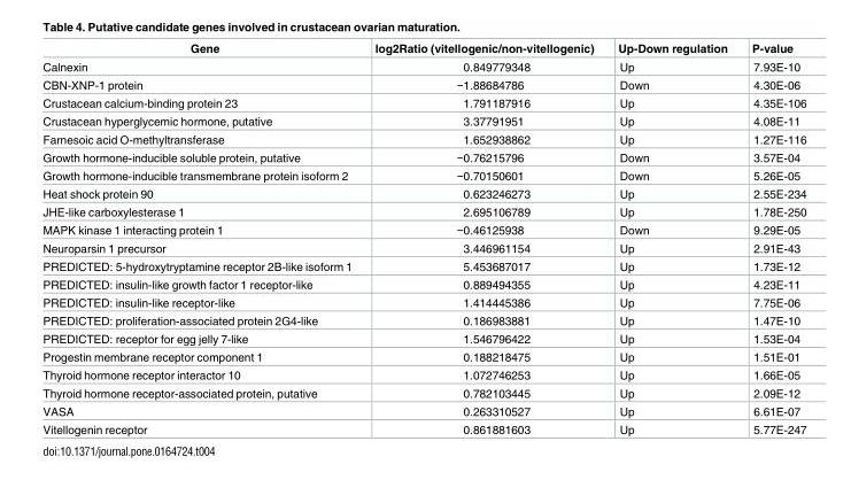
<table><thead><tr><td>Gene</td><td>log2Ratio (vitellogenic/non-vitellogenic)</td><td>Up-Down regulation</td><td>P-value</td></tr></thead><tbody><tr><td>Calnexin</td><td>0.849779348</td><td>Up</td><td>7.93E-10</td></tr><tr><td>CBN-XNP-1 protein</td><td>−1.88684786</td><td>Down</td><td>4.30E-06</td></tr><tr><td>Crustacean calcium-binding protein 23</td><td>1.791187916</td><td>Up</td><td>4.35E-106</td></tr><tr><td>Crustacean hyperglycemic hormone, putative</td><td>3.37791951</td><td>Up</td><td>4.08E-11</td></tr><tr><td>Farnesoic acid O-methyltransferase</td><td>1.652938862</td><td>Up</td><td>1.27E-116</td></tr><tr><td>Growth hormone-inducible soluble protein, putative</td><td>−0.76215796</td><td>Down</td><td>3.57E-04</td></tr><tr><td>Growth hormone-inducible transmembrane protein isoform 2</td><td>−0.70150601</td><td>Down</td><td>5.26E-05</td></tr><tr><td>Heat shock protein 90</td><td>0.623246273</td><td>Up</td><td>2.55E-234</td></tr><tr><td>JHE-like carboxylesterase 1</td><td>2.695106789</td><td>Up</td><td>1.78E-250</td></tr><tr><td>MAPK kinase 1 interacting protein 1</td><td>−0.46125938</td><td>Down</td><td>9.29E-05</td></tr><tr><td>Neuroparsin 1 precursor</td><td>3.446961154</td><td>Up</td><td>2.91E-43</td></tr><tr><td>PREDICTED: 5-hydroxytryptamine receptor 2B-like isoform 1</td><td>5.453687017</td><td>Up</td><td>1.73E-12</td></tr><tr><td>PREDICTED: insulin-like growth factor 1 receptor-like</td><td>0.889494355</td><td>Up</td><td>4.23E-11</td></tr><tr><td>PREDICTED: insulin-like receptor-like</td><td>1.414445386</td><td>Up</td><td>7.75E-06</td></tr><tr><td>PREDICTED: proliferation-associated protein 2G4-like</td><td>0.186983881</td><td>Up</td><td>1.47E-10</td></tr><tr><td>PREDICTED: receptor for egg jelly 7-like</td><td>1.546796422</td><td>Up</td><td>1.53E-04</td></tr><tr><td>Progestin membrane receptor component 1</td><td>0.188218475</td><td>Up</td><td>1.51E-01</td></tr><tr><td>Thyroid hormone receptor interactor 10</td><td>1.072746253</td><td>Up</td><td>1.66E-05</td></tr><tr><td>Thyroid hormone receptor-associated protein, putative</td><td>0.782103445</td><td>Up</td><td>2.09E-12</td></tr><tr><td>VASA</td><td>0.263310527</td><td>Up</td><td>6.61E-07</td></tr><tr><td>Vitellogenin receptor</td><td>0.861881603</td><td>Up</td><td>5.77E-247</td></tr></tbody></table>